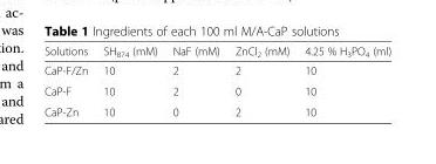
<table><thead><tr><td>Solutions</td><td>SH<sub>874</sub> (mM)</td><td>NaF (mM)</td><td>ZnCl<sub>2</sub> (mM)</td><td>4.25 % H<sub>3</sub>PO<sub>4</sub> (ml)</td></tr></thead><tbody><tr><td>CaP-F/Zn</td><td>10</td><td>2</td><td>2</td><td>10</td></tr><tr><td>CaP-F</td><td>10</td><td>2</td><td>0</td><td>10</td></tr><tr><td>CaP-Zn</td><td>10</td><td>0</td><td>2</td><td>10</td></tr></tbody></table>